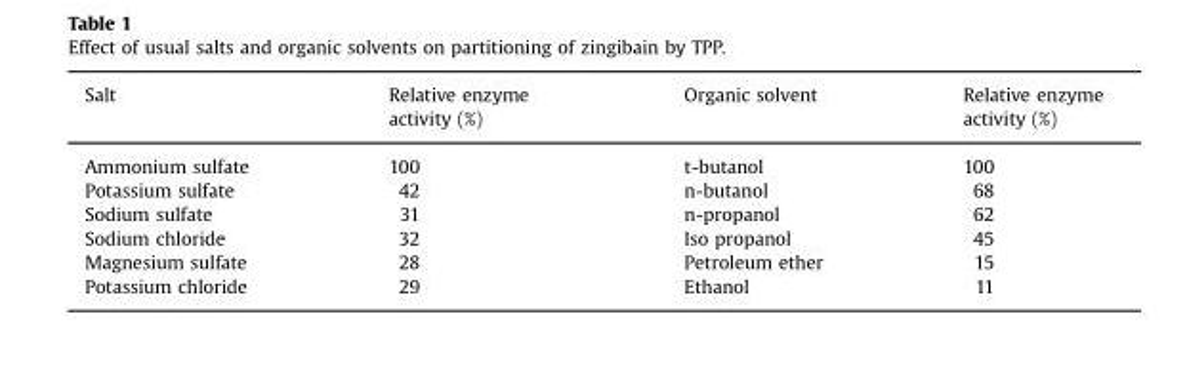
<table><thead><tr><td>Salt</td><td>Relative enzyme activity (%)</td><td>Organic solvent</td><td>Relative enzyme activity (%)</td></tr></thead><tbody><tr><td>Ammonium sulfate</td><td>100</td><td>t-butanol</td><td>100</td></tr><tr><td>Potassium sulfate</td><td>42</td><td>n-butanol</td><td>68</td></tr><tr><td>Sodium sulfate</td><td>31</td><td>n-propanol</td><td>62</td></tr><tr><td>Sodium chloride</td><td>32</td><td>Iso propanol</td><td>45</td></tr><tr><td>Magnesium sulfate</td><td>28</td><td>Petroleum ether</td><td>15</td></tr><tr><td>Potassium chloride</td><td>29</td><td>Ethanol</td><td>11</td></tr></tbody></table>